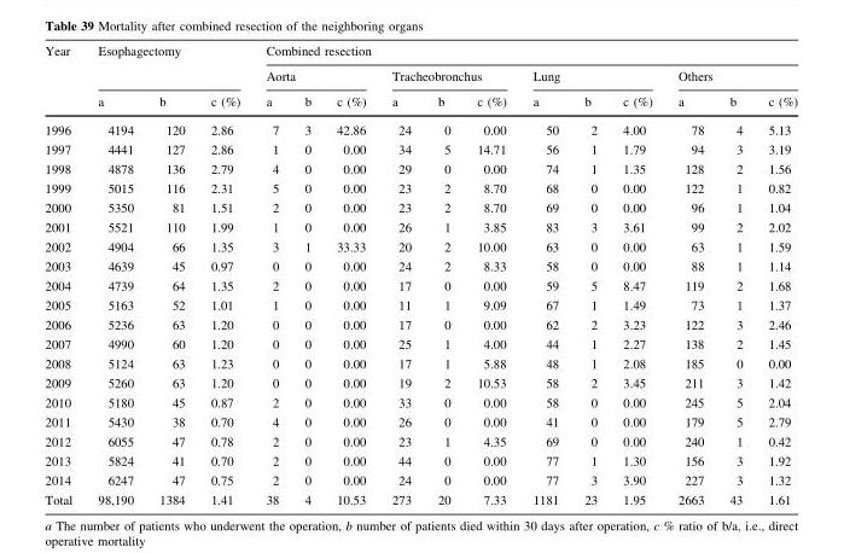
<table><thead><tr><td rowspan="3">Year</td><td rowspan="2" colspan="3">Esophagectomy</td><td colspan="12">Combined resection</td></tr><tr><td colspan="3">Aorta</td><td colspan="3">Tracheobronchus</td><td colspan="3">Lung</td><td colspan="3">Others</td></tr><tr><td>a</td><td>b</td><td>c (%)</td><td>a</td><td>b</td><td>c (%)</td><td>a</td><td>b</td><td>c (%)</td><td>a</td><td>b</td><td>c (%)</td><td>a</td><td>b</td><td>c (%)</td></tr></thead><tbody><tr><td>1996</td><td>4194</td><td>120</td><td>2.86</td><td>7</td><td>3</td><td>42.86</td><td>24</td><td>0</td><td>0.00</td><td>50</td><td>2</td><td>4.00</td><td>78</td><td>4</td><td>5.13</td></tr><tr><td>1997</td><td>4441</td><td>127</td><td>2.86</td><td>1</td><td>0</td><td>0.00</td><td>34</td><td>5</td><td>14.71</td><td>56</td><td>1</td><td>1.79</td><td>94</td><td>3</td><td>3.19</td></tr><tr><td>1998</td><td>4878</td><td>136</td><td>2.79</td><td>4</td><td>0</td><td>0.00</td><td>29</td><td>0</td><td>0.00</td><td>74</td><td>1</td><td>1.35</td><td>128</td><td>2</td><td>1.56</td></tr><tr><td>1999</td><td>5015</td><td>116</td><td>2.31</td><td>5</td><td>0</td><td>0.00</td><td>23</td><td>2</td><td>8.70</td><td>68</td><td>0</td><td>0.00</td><td>122</td><td>1</td><td>0.82</td></tr><tr><td>2000</td><td>5350</td><td>81</td><td>1.51</td><td>2</td><td>0</td><td>0.00</td><td>23</td><td>2</td><td>8.70</td><td>69</td><td>0</td><td>0.00</td><td>96</td><td>1</td><td>1.04</td></tr><tr><td>2001</td><td>5521</td><td>110</td><td>1.99</td><td>1</td><td>0</td><td>0.00</td><td>26</td><td>1</td><td>3.85</td><td>83</td><td>3</td><td>3.61</td><td>99</td><td>2</td><td>2.02</td></tr><tr><td>2002</td><td>4904</td><td>66</td><td>1.35</td><td>3</td><td>1</td><td>33.33</td><td>20</td><td>2</td><td>10.00</td><td>63</td><td>0</td><td>0.00</td><td>63</td><td>1</td><td>1.59</td></tr><tr><td>2003</td><td>4639</td><td>45</td><td>0.97</td><td>0</td><td>0</td><td>0.00</td><td>24</td><td>2</td><td>8.33</td><td>58</td><td>0</td><td>0.00</td><td>88</td><td>1</td><td>1.14</td></tr><tr><td>2004</td><td>4739</td><td>64</td><td>1.35</td><td>2</td><td>0</td><td>0.00</td><td>17</td><td>0</td><td>0.00</td><td>59</td><td>5</td><td>8.47</td><td>119</td><td>2</td><td>1.68</td></tr><tr><td>2005</td><td>5163</td><td>52</td><td>1.01</td><td>1</td><td>0</td><td>0.00</td><td>11</td><td>1</td><td>9.09</td><td>67</td><td>1</td><td>1.49</td><td>73</td><td>1</td><td>1.37</td></tr><tr><td>2006</td><td>5236</td><td>63</td><td>1.20</td><td>0</td><td>0</td><td>0.00</td><td>17</td><td>0</td><td>0.00</td><td>62</td><td>2</td><td>3.23</td><td>122</td><td>3</td><td>2.46</td></tr><tr><td>2007</td><td>4990</td><td>60</td><td>1.20</td><td>0</td><td>0</td><td>0.00</td><td>25</td><td>1</td><td>4.00</td><td>44</td><td>1</td><td>2.27</td><td>138</td><td>2</td><td>1.45</td></tr><tr><td>2008</td><td>5124</td><td>63</td><td>1.23</td><td>0</td><td>0</td><td>0.00</td><td>17</td><td>1</td><td>5.88</td><td>48</td><td>1</td><td>2.08</td><td>185</td><td>0</td><td>0.00</td></tr><tr><td>2009</td><td>5260</td><td>63</td><td>1.20</td><td>0</td><td>0</td><td>0.00</td><td>19</td><td>2</td><td>10.53</td><td>58</td><td>2</td><td>3.45</td><td>211</td><td>3</td><td>1.42</td></tr><tr><td>2010</td><td>5180</td><td>45</td><td>0.87</td><td>2</td><td>0</td><td>0.00</td><td>33</td><td>0</td><td>0.00</td><td>58</td><td>0</td><td>0.00</td><td>245</td><td>5</td><td>2.04</td></tr><tr><td>2011</td><td>5430</td><td>38</td><td>0.70</td><td>4</td><td>0</td><td>0.00</td><td>26</td><td>0</td><td>0.00</td><td>41</td><td>0</td><td>0.00</td><td>179</td><td>5</td><td>2.79</td></tr><tr><td>2012</td><td>6055</td><td>47</td><td>0.78</td><td>2</td><td>0</td><td>0.00</td><td>23</td><td>1</td><td>4.35</td><td>69</td><td>0</td><td>0.00</td><td>240</td><td>1</td><td>0.42</td></tr><tr><td>2013</td><td>5824</td><td>41</td><td>0.70</td><td>2</td><td>0</td><td>0.00</td><td>44</td><td>0</td><td>0.00</td><td>77</td><td>1</td><td>1.30</td><td>156</td><td>3</td><td>1.92</td></tr><tr><td>2014</td><td>6247</td><td>47</td><td>0.75</td><td>2</td><td>0</td><td>0.00</td><td>24</td><td>0</td><td>0.00</td><td>77</td><td>3</td><td>3.90</td><td>227</td><td>3</td><td>1.32</td></tr><tr><td>Total</td><td>98,190</td><td>1384</td><td>1.41</td><td>38</td><td>4</td><td>10.53</td><td>273</td><td>20</td><td>7.33</td><td>1181</td><td>23</td><td>1.95</td><td>2663</td><td>43</td><td>1.61</td></tr></tbody></table>